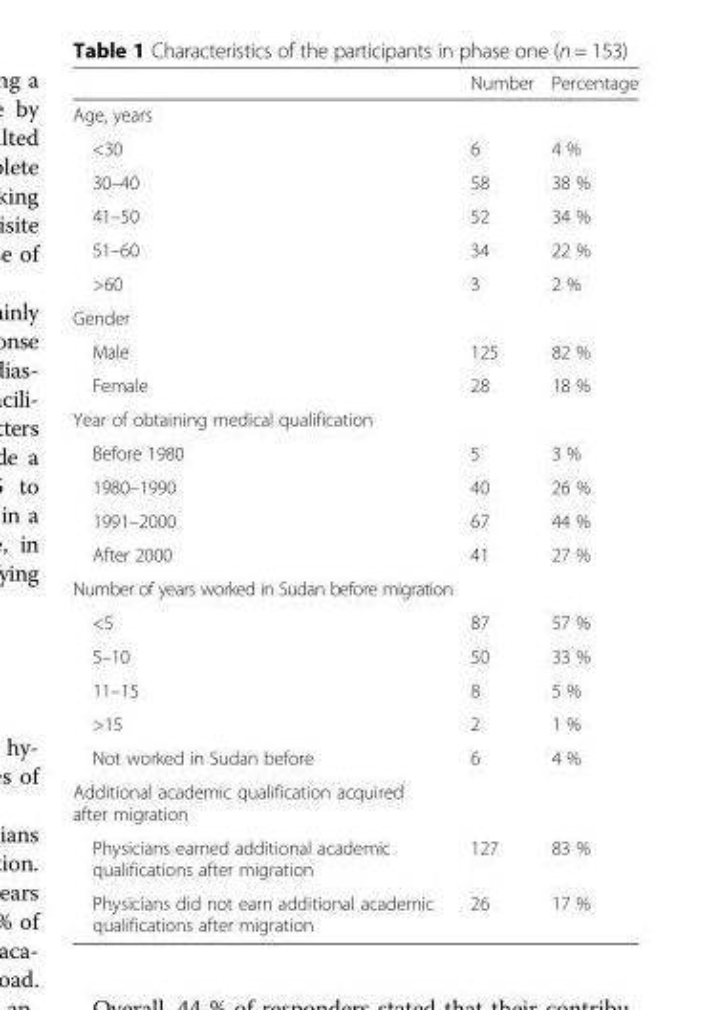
<table><thead><tr><td></td><td>Number</td><td>Percentage</td></tr></thead><tbody><tr><td colspan="3">Age, years</td></tr><tr><td>&lt;30</td><td>6</td><td>4 %</td></tr><tr><td>30–40</td><td>58</td><td>38 %</td></tr><tr><td>41–50</td><td>52</td><td>34 %</td></tr><tr><td>51–60</td><td>34</td><td>22 %</td></tr><tr><td>&gt;60</td><td>3</td><td>2 %</td></tr><tr><td colspan="3">Gender</td></tr><tr><td>Male</td><td>125</td><td>82 %</td></tr><tr><td>Female</td><td>28</td><td>18 %</td></tr><tr><td colspan="3">Year of obtaining medical qualification</td></tr><tr><td>Before 1980</td><td>5</td><td>3 %</td></tr><tr><td>1980–1990</td><td>40</td><td>26 %</td></tr><tr><td>1991–2000</td><td>67</td><td>44 %</td></tr><tr><td>After 2000</td><td>41</td><td>27 %</td></tr><tr><td colspan="3">Number of years worked in Sudan before migration</td></tr><tr><td>&lt;5</td><td>87</td><td>57 %</td></tr><tr><td>5–10</td><td>50</td><td>33 %</td></tr><tr><td>11–15</td><td>8</td><td>5 %</td></tr><tr><td>&gt;15</td><td>2</td><td>1 %</td></tr><tr><td>Not worked in Sudan before</td><td>6</td><td>4 %</td></tr><tr><td colspan="3">Additional academic qualification acquired after migration</td></tr><tr><td>Physicians earned additional academic qualifications after migration</td><td>127</td><td>83 %</td></tr><tr><td>Physicians did not earn additional academic qualifications after migration</td><td>26</td><td>17 %</td></tr></tbody></table>